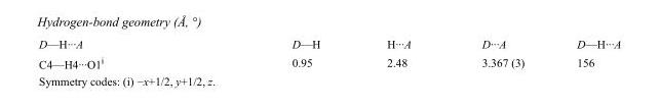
<table><tbody><tr><td>D—H···A</td><td>D—H</td><td>H···A</td><td>D···A</td><td>D—H···A</td></tr><tr><td>C4—H4···O1<sup>i</sup></td><td>0.95</td><td>2.48</td><td>3.367 (3)</td><td>156</td></tr></tbody></table>